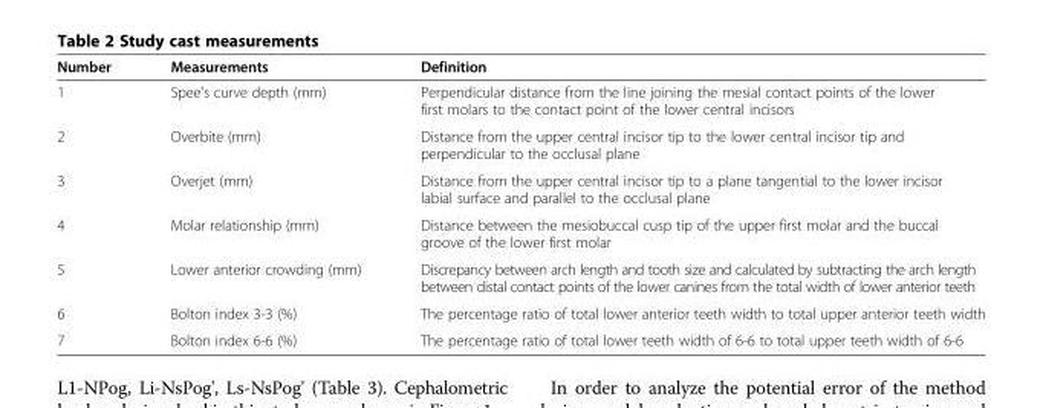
<table><thead><tr><td>Number</td><td>Measurements</td><td>Definition</td></tr></thead><tbody><tr><td>1</td><td>Spee&#x27;s curve depth (mm)</td><td>Perpendicular distance from the line joining the mesial contact points of the lower first molars to the contact point of the lower central incisors</td></tr><tr><td>2</td><td>Overbite (mm)</td><td>Distance from the upper central incisor tip to the lower central incisor tip and perpendicular to the occlusal plane</td></tr><tr><td>3</td><td>Overjet (mm)</td><td>Distance from the upper central incisor tip to a plane tangential to the lower incisor labial surface and parallel to the occlusal plane</td></tr><tr><td>4</td><td>Molar relationship (mm)</td><td>Distance between the mesiobuccal cusp tip of the upper first molar and the buccal groove of the lower first molar</td></tr><tr><td>5</td><td>Lower anterior crowding (mm)</td><td>Discrepancy between arch length and tooth size and calculated by subtracting the arch length between distal contact points of the lower canines from the total width of lower anterior teeth</td></tr><tr><td>6</td><td>Bolton index 3-3 (%)</td><td>The percentage ratio of total lower anterior teeth width to total upper anterior teeth width</td></tr><tr><td>7</td><td>Bolton index 6-6 (%)</td><td>The percentage ratio of total lower teeth width of 6-6 to total upper teeth width of 6-6</td></tr></tbody></table>